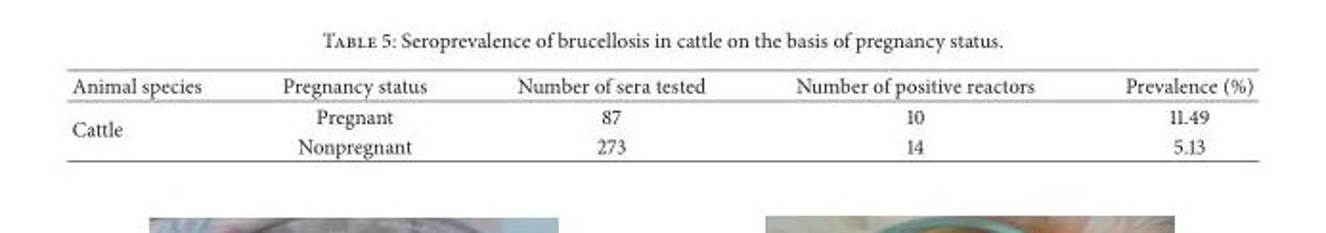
<table><thead><tr><td>Animal species</td><td>Pregnancy status</td><td>Number of sera tested</td><td>Number of positive reactors</td><td>Prevalence (%)</td></tr></thead><tbody><tr><td rowspan="2">Cattle</td><td>Pregnant</td><td>87</td><td>10</td><td>11.49</td></tr><tr><td>Nonpregnant</td><td>273</td><td>14</td><td>5.13</td></tr></tbody></table>